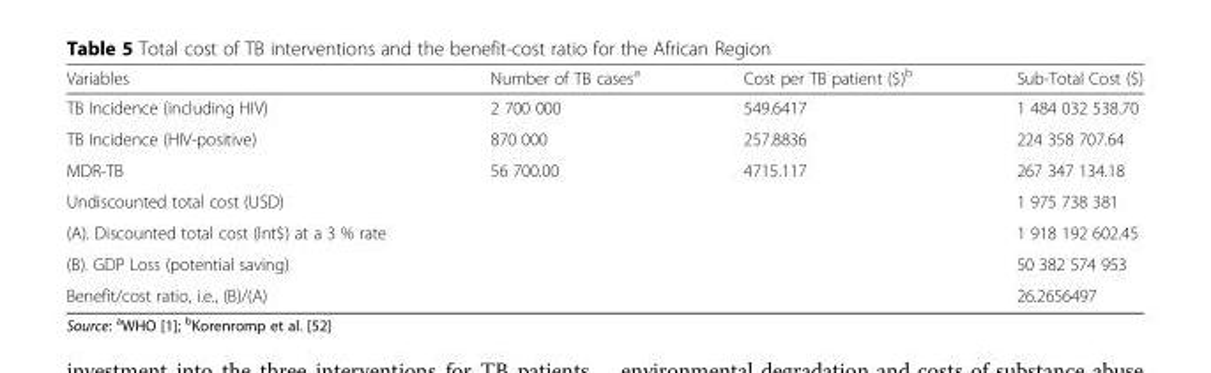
<table><thead><tr><td>Variables</td><td>Number of TB cases<sup>a</sup></td><td>Cost per TB patient ($)<sup>b</sup></td><td>Sub-Total Cost ($)</td></tr></thead><tbody><tr><td>TB Incidence (including HIV)</td><td>2 700 000</td><td>549.6417</td><td>1 484 032 538.70</td></tr><tr><td>TB Incidence (HIV-positive)</td><td>870 000</td><td>257.8836</td><td>224 358 707.64</td></tr><tr><td>MDR-TB</td><td>56 700.00</td><td>4715.117</td><td>267 347 134.18</td></tr><tr><td>Undiscounted total cost (USD)</td><td></td><td></td><td>1 975 738 381</td></tr><tr><td>(A). Discounted total cost (Int$) at a 3 % rate</td><td></td><td></td><td>1 918 192 602.45</td></tr><tr><td>(B). GDP Loss (potential saving)</td><td></td><td></td><td>50 382 574 953</td></tr><tr><td>Benefit/cost ratio, i.e., (B)/(A)</td><td></td><td></td><td>26.2656497</td></tr></tbody></table>